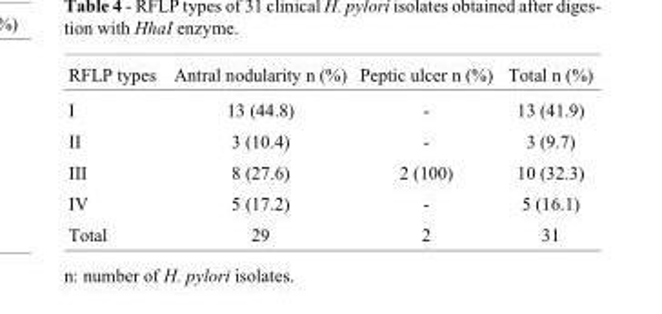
<table><thead><tr><td>RFLP types</td><td>Antral nodularity n (%)</td><td>Peptic ulcer n (%)</td><td>Total n (%)</td></tr></thead><tbody><tr><td>I</td><td>13 (44.8)</td><td>-</td><td>13 (41.9)</td></tr><tr><td>II</td><td>3 (10.4)</td><td>-</td><td>3 (9.7)</td></tr><tr><td>III</td><td>8 (27.6)</td><td>2 (100)</td><td>10 (32.3)</td></tr><tr><td>IV</td><td>5 (17.2)</td><td>-</td><td>5 (16.1)</td></tr><tr><td>Total</td><td>29</td><td>2</td><td>31</td></tr></tbody></table>